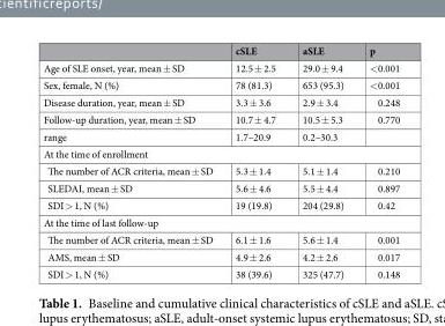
<table><thead><tr><td></td><td>cSLE</td><td>aSLE</td><td>p</td></tr></thead><tbody><tr><td>Age of SLE onset, year, mean ± SD</td><td>12.5 ± 2.5</td><td>29.0 ± 9.4</td><td>&lt;0.001</td></tr><tr><td>Sex, female, N (%)</td><td>78 (81.3)</td><td>653 (95.3)</td><td>&lt;0.001</td></tr><tr><td>Disease duration, year, mean ± SD</td><td>3.3 ± 3.6</td><td>2.9 ± 3.4</td><td>0.248</td></tr><tr><td>Follow-up duration, year, mean ± SD</td><td>10.7 ± 4.7</td><td>10.5 ± 5.3</td><td>0.770</td></tr><tr><td>range</td><td>1.7–20.9</td><td>0.2–30.3</td><td></td></tr><tr><td colspan="4">At the time of enrollment</td></tr><tr><td>The number of ACR criteria, mean ± SD</td><td>5.3 ± 1.4</td><td>5.1 ± 1.4</td><td>0.210</td></tr><tr><td>SLEDAI, mean ± SD</td><td>5.6 ± 4.6</td><td>5.5 ± 4.4</td><td>0.897</td></tr><tr><td>SDI &gt; 1, N (%)</td><td>19 (19.8)</td><td>204 (29.8)</td><td>0.42</td></tr><tr><td colspan="4">At the time of last follow-up</td></tr><tr><td>The number of ACR criteria, mean ± SD</td><td>6.1 ± 1.6</td><td>5.6 ± 1.4</td><td>0.001</td></tr><tr><td>AMS, mean ± SD</td><td>4.9 ± 2.6</td><td>4.2 ± 2.6</td><td>0.017</td></tr><tr><td>SDI &gt; 1, N (%)</td><td>38 (39.6)</td><td>325 (47.7)</td><td>0.148</td></tr></tbody></table>